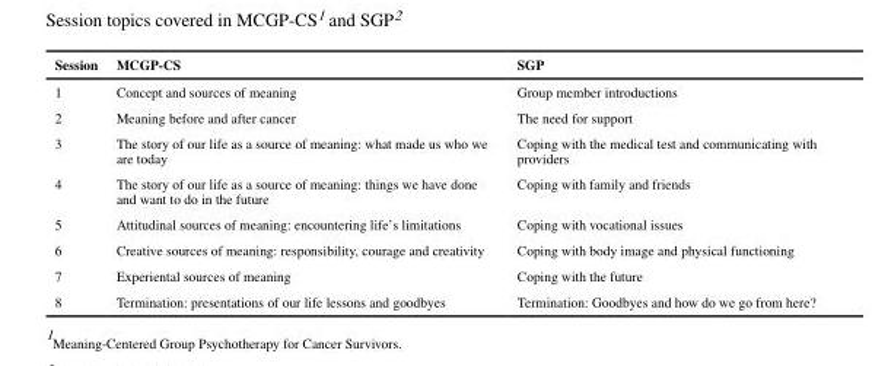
<table><thead><tr><td>Session</td><td>MCGP-CS</td><td>SGP</td></tr></thead><tbody><tr><td>1</td><td>Concept and sources of meaning</td><td>Group member introductions</td></tr><tr><td>2</td><td>Meaning before and after cancer</td><td>The need for support</td></tr><tr><td>3</td><td>The story of our life as a source of meaning: what made us who we are today</td><td>Coping with the medical test and communicating with providers</td></tr><tr><td>4</td><td>The story of our life as a source of meaning: things we have done and want to do in the future</td><td>Coping with family and friends</td></tr><tr><td>5</td><td>Attitudinal sources of meaning: encountering life’s limitations</td><td>Coping with vocational issues</td></tr><tr><td>6</td><td>Creative sources of meaning: responsibility, courage and creativity</td><td>Coping with body image and physical functioning</td></tr><tr><td>7</td><td>Experiental sources of meaning</td><td>Coping with the future</td></tr><tr><td>8</td><td>Termination: presentations of our life lessons and goodbyes</td><td>Termination: Goodbyes and how do we go from here?</td></tr></tbody></table>